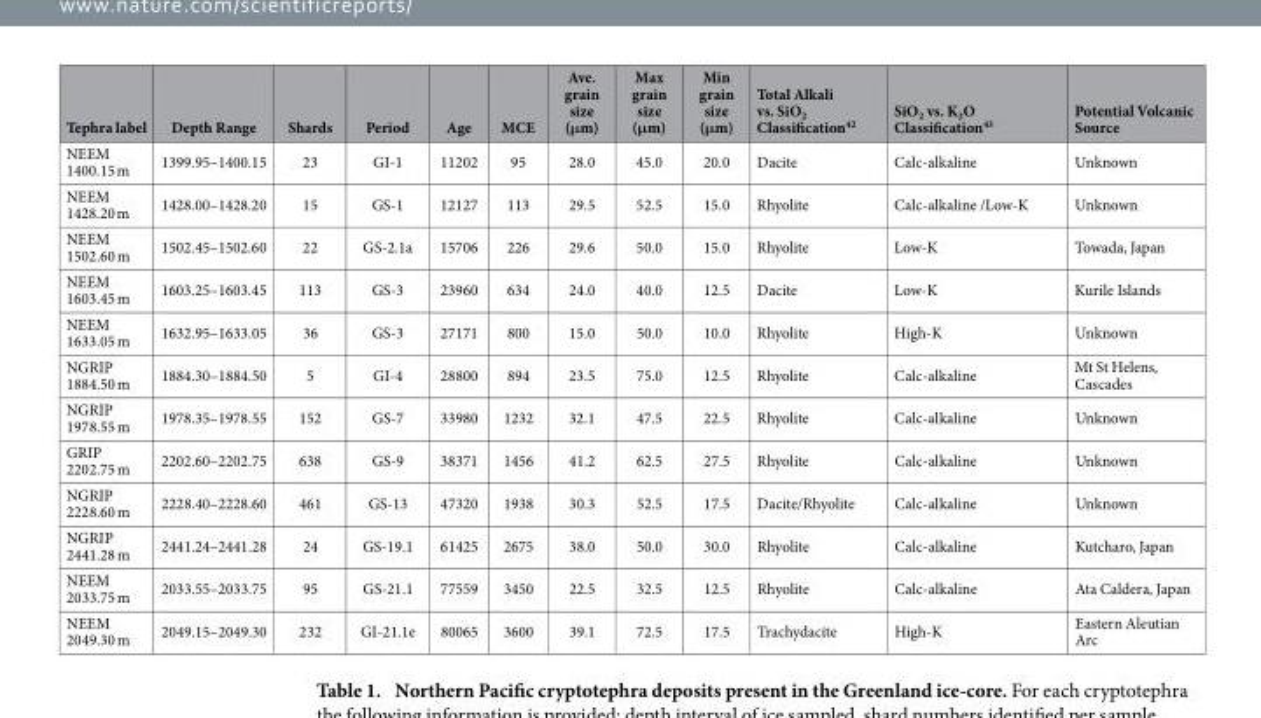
<table><thead><tr><td>Tephra label</td><td>Depth Range</td><td>Shards</td><td>Period</td><td>Age</td><td>MCE</td><td>Ave. grain size (μm)</td><td>Max grain size (μm)</td><td>Min grain size (μm)</td><td>Total Alkali vs. SiO<sub>2</sub> Classification<sup>42</sup></td><td>SiO<sub>2</sub> vs. K<sub>2</sub>O Classification<sup>43</sup></td><td>Potential Volcanic Source</td></tr></thead><tbody><tr><td>NEEM 1400.15 m</td><td>1399.95–1400.15</td><td>23</td><td>GI-1</td><td>11202</td><td>95</td><td>28.0</td><td>45.0</td><td>20.0</td><td>Dacite</td><td>Calc-alkaline</td><td>Unknown</td></tr><tr><td>NEEM 1428.20 m</td><td>1428.00–1428.20</td><td>15</td><td>GS-1</td><td>12127</td><td>113</td><td>29.5</td><td>52.5</td><td>15.0</td><td>Rhyolite</td><td>Calc-alkaline /Low-K</td><td>Unknown</td></tr><tr><td>NEEM 1502.60 m</td><td>1502.45–1502.60</td><td>22</td><td>GS-2.1a</td><td>15706</td><td>226</td><td>29.6</td><td>50.0</td><td>15.0</td><td>Rhyolite</td><td>Low-K</td><td>Towada, Japan</td></tr><tr><td>NEEM 1603.45 m</td><td>1603.25–1603.45</td><td>113</td><td>GS-3</td><td>23960</td><td>634</td><td>24.0</td><td>40.0</td><td>12.5</td><td>Dacite</td><td>Low-K</td><td>Kurile Islands</td></tr><tr><td>NEEM 1633.05 m</td><td>1632.95–1633.05</td><td>36</td><td>GS-3</td><td>27171</td><td>800</td><td>15.0</td><td>50.0</td><td>10.0</td><td>Rhyolite</td><td>High-K</td><td>Unknown</td></tr><tr><td>NGRIP 1884.50 m</td><td>1884.30–1884.50</td><td>5</td><td>GI-4</td><td>28800</td><td>894</td><td>23.5</td><td>75.0</td><td>12.5</td><td>Rhyolite</td><td>Calc-alkaline</td><td>Mt St Helens, Cascades</td></tr><tr><td>NGRIP 1978.55 m</td><td>1978.35–1978.55</td><td>152</td><td>GS-7</td><td>33980</td><td>1232</td><td>32.1</td><td>47.5</td><td>22.5</td><td>Rhyolite</td><td>Calc-alkaline</td><td>Unknown</td></tr><tr><td>GRIP 2202.75 m</td><td>2202.60–2202.75</td><td>638</td><td>GS-9</td><td>38371</td><td>1456</td><td>41.2</td><td>62.5</td><td>27.5</td><td>Rhyolite</td><td>Calc-alkaline</td><td>Unknown</td></tr><tr><td>NGRIP 2228.60 m</td><td>2228.40–2228.60</td><td>461</td><td>GS-13</td><td>47320</td><td>1938</td><td>30.3</td><td>52.5</td><td>17.5</td><td>Dacite/Rhyolite</td><td>Calc-alkaline</td><td>Unknown</td></tr><tr><td>NGRIP 2441.28 m</td><td>2441.24–2441.28</td><td>24</td><td>GS-19.1</td><td>61425</td><td>2675</td><td>38.0</td><td>50.0</td><td>30.0</td><td>Rhyolite</td><td>Calc-alkaline</td><td>Kutcharo, Japan</td></tr><tr><td>NEEM 2033.75 m</td><td>2033.55–2033.75</td><td>95</td><td>GS-21.1</td><td>77559</td><td>3450</td><td>22.5</td><td>32.5</td><td>12.5</td><td>Rhyolite</td><td>Calc-alkaline</td><td>Ata Caldera, Japan</td></tr><tr><td>NEEM 2049.30 m</td><td>2049.15–2049.30</td><td>232</td><td>GI-21.1e</td><td>80065</td><td>3600</td><td>39.1</td><td>72.5</td><td>17.5</td><td>Trachydacite</td><td>High-K</td><td>Eastern Aleutian Arc</td></tr></tbody></table>